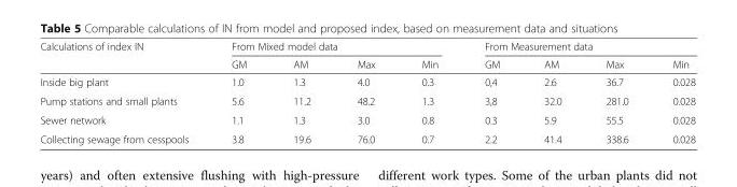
<table><thead><tr><td rowspan="2">Calculations of index IN</td><td colspan="4">From Mixed model data</td><td colspan="4">From Measurement data</td></tr><tr><td>GM</td><td>AM</td><td>Max</td><td>Min</td><td>GM</td><td>AM</td><td>Max</td><td>Min</td></tr></thead><tbody><tr><td>Inside big plant</td><td>1.0</td><td>1.3</td><td>4.0</td><td>0.3</td><td>0,4</td><td>2.6</td><td>36.7</td><td>0.028</td></tr><tr><td>Pump stations and small plants</td><td>5.6</td><td>11.2</td><td>48.2</td><td>1.3</td><td>3,8</td><td>32.0</td><td>281.0</td><td>0.028</td></tr><tr><td>Sewer network</td><td>1.1</td><td>1.3</td><td>3.0</td><td>0.8</td><td>0.3</td><td>5.9</td><td>55.5</td><td>0.028</td></tr><tr><td>Collecting sewage from cesspools</td><td>3.8</td><td>19.6</td><td>76.0</td><td>0.7</td><td>2.2</td><td>41.4</td><td>338.6</td><td>0.028</td></tr></tbody></table>